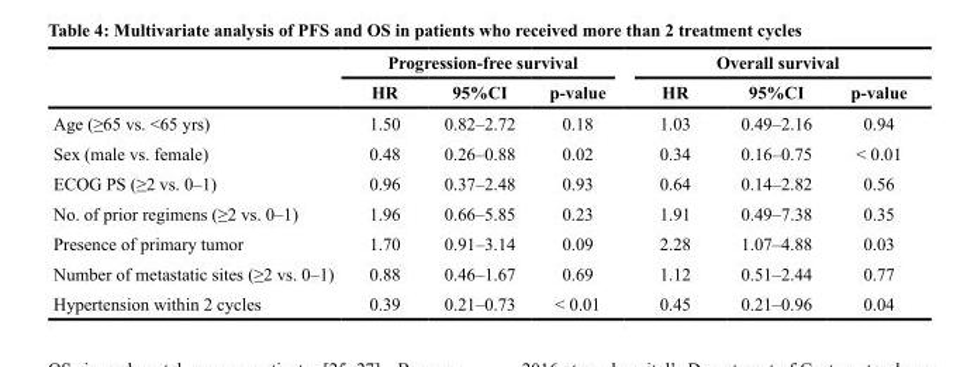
<table><thead><tr><td rowspan="2"></td><td colspan="3">Progression-free survival</td><td colspan="3">Overall survival</td></tr><tr><td>HR</td><td>95%CI</td><td>p-value</td><td>HR</td><td>95%CI</td><td>p-value</td></tr></thead><tbody><tr><td>Age (≥65 vs. &lt;65 yrs)</td><td>1.50</td><td>0.82–2.72</td><td>0.18</td><td>1.03</td><td>0.49–2.16</td><td>0.94</td></tr><tr><td>Sex (male vs. female)</td><td>0.48</td><td>0.26–0.88</td><td>0.02</td><td>0.34</td><td>0.16–0.75</td><td>&lt; 0.01</td></tr><tr><td>ECOG PS (≥2 vs. 0–1)</td><td>0.96</td><td>0.37–2.48</td><td>0.93</td><td>0.64</td><td>0.14–2.82</td><td>0.56</td></tr><tr><td>No. of prior regimens (≥2 vs. 0–1)</td><td>1.96</td><td>0.66–5.85</td><td>0.23</td><td>1.91</td><td>0.49–7.38</td><td>0.35</td></tr><tr><td>Presence of primary tumor</td><td>1.70</td><td>0.91–3.14</td><td>0.09</td><td>2.28</td><td>1.07–4.88</td><td>0.03</td></tr><tr><td>Number of metastatic sites (≥2 vs. 0–1)</td><td>0.88</td><td>0.46–1.67</td><td>0.69</td><td>1.12</td><td>0.51–2.44</td><td>0.77</td></tr><tr><td>Hypertension within 2 cycles</td><td>0.39</td><td>0.21–0.73</td><td>&lt; 0.01</td><td>0.45</td><td>0.21–0.96</td><td>0.04</td></tr></tbody></table>